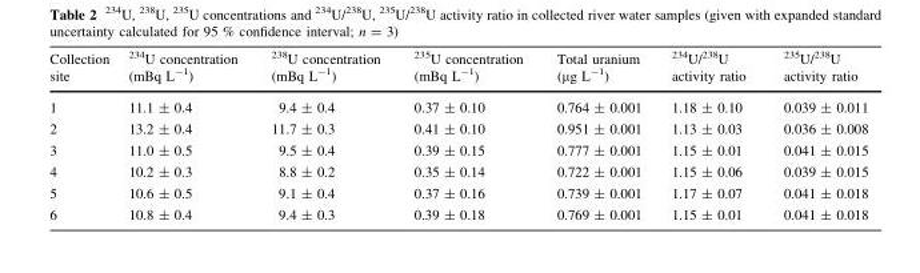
<table><thead><tr><td>Collection site</td><td><sup>234</sup>U concentration (mBq L<sup>-1</sup>)</td><td><sup>238</sup>U concentration (mBq L<sup>-1</sup>)</td><td><sup>235</sup>U concentration (mBq L<sup>-1</sup>)</td><td>Total uranium (µg L<sup>-1</sup>)</td><td><sup>234</sup>U/<sup>238</sup>U activity ratio</td><td><sup>235</sup>U/<sup>238</sup>U activity ratio</td></tr></thead><tbody><tr><td>1</td><td>11.1 ± 0.4</td><td>9.4 ± 0.4</td><td>0.37 ± 0.10</td><td>0.764 ± 0.001</td><td>1.18 ± 0.10</td><td>0.039 ± 0.011</td></tr><tr><td>2</td><td>13.2 ± 0.4</td><td>11.7 ± 0.3</td><td>0.41 ± 0.10</td><td>0.951 ± 0.001</td><td>1.13 ± 0.03</td><td>0.036 ± 0.008</td></tr><tr><td>3</td><td>11.0 ± 0.5</td><td>9.5 ± 0.4</td><td>0.39 ± 0.15</td><td>0.777 ± 0.001</td><td>1.15 ± 0.01</td><td>0.041 ± 0.015</td></tr><tr><td>4</td><td>10.2 ± 0.3</td><td>8.8 ± 0.2</td><td>0.35 ± 0.14</td><td>0.722 ± 0.001</td><td>1.15 ± 0.06</td><td>0.039 ± 0.015</td></tr><tr><td>5</td><td>10.6 ± 0.5</td><td>9.1 ± 0.4</td><td>0.37 ± 0.16</td><td>0.739 ± 0.001</td><td>1.17 ± 0.07</td><td>0.041 ± 0.018</td></tr><tr><td>6</td><td>10.8 ± 0.4</td><td>9.4 ± 0.3</td><td>0.39 ± 0.18</td><td>0.769 ± 0.001</td><td>1.15 ± 0.01</td><td>0.041 ± 0.018</td></tr></tbody></table>